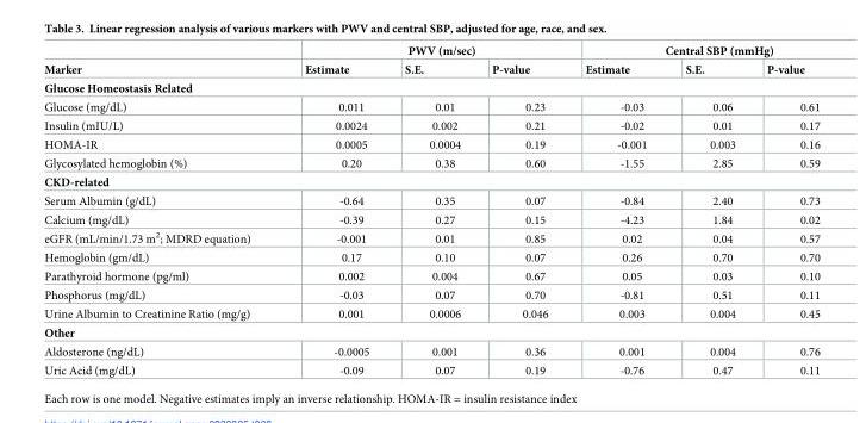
<table><thead><tr><td rowspan="2">Marker</td><td colspan="3">PWV (m/sec)</td><td colspan="3">Central SBP (mmHg)</td></tr><tr><td>Estimate</td><td>S.E.</td><td>P-value</td><td>Estimate</td><td>S.E.</td><td>P-value</td></tr></thead><tbody><tr><td colspan="7">Glucose Homeostasis Related</td></tr><tr><td>Glucose (mg/dL)</td><td>0.011</td><td>0.01</td><td>0.23</td><td>-0.03</td><td>0.06</td><td>0.61</td></tr><tr><td>Insulin (mIU/L)</td><td>0.0024</td><td>0.002</td><td>0.21</td><td>-0.02</td><td>0.01</td><td>0.17</td></tr><tr><td>HOMA-IR</td><td>0.0005</td><td>0.0004</td><td>0.19</td><td>-0.001</td><td>0.003</td><td>0.16</td></tr><tr><td>Glycosylated hemoglobin (%)</td><td>0.20</td><td>0.38</td><td>0.60</td><td>-1.55</td><td>2.85</td><td>0.59</td></tr><tr><td colspan="7">CKD-related</td></tr><tr><td>Serum Albumin (g/dL)</td><td>-0.64</td><td>0.35</td><td>0.07</td><td>-0.84</td><td>2.40</td><td>0.73</td></tr><tr><td>Calcium (mg/dL)</td><td>-0.39</td><td>0.27</td><td>0.15</td><td>-4.23</td><td>1.84</td><td>0.02</td></tr><tr><td>eGFR (mL/min/1.73 m<sup>2</sup>; MDRD equation)</td><td>-0.001</td><td>0.01</td><td>0.85</td><td>0.02</td><td>0.04</td><td>0.57</td></tr><tr><td>Hemoglobin (gm/dL)</td><td>0.17</td><td>0.10</td><td>0.07</td><td>0.26</td><td>0.70</td><td>0.70</td></tr><tr><td>Parathyroid hormone (pg/ml)</td><td>0.002</td><td>0.004</td><td>0.67</td><td>0.05</td><td>0.03</td><td>0.10</td></tr><tr><td>Phosphorus (mg/dL)</td><td>-0.03</td><td>0.07</td><td>0.70</td><td>-0.81</td><td>0.51</td><td>0.11</td></tr><tr><td>Urine Albumin to Creatinine Ratio (mg/g)</td><td>0.001</td><td>0.0006</td><td>0.046</td><td>0.003</td><td>0.004</td><td>0.45</td></tr><tr><td colspan="7">Other</td></tr><tr><td>Aldosterone (ng/dL)</td><td>-0.0005</td><td>0.001</td><td>0.36</td><td>0.001</td><td>0.004</td><td>0.76</td></tr><tr><td>Uric Acid (mg/dL)</td><td>-0.09</td><td>0.07</td><td>0.19</td><td>-0.76</td><td>0.47</td><td>0.11</td></tr></tbody></table>